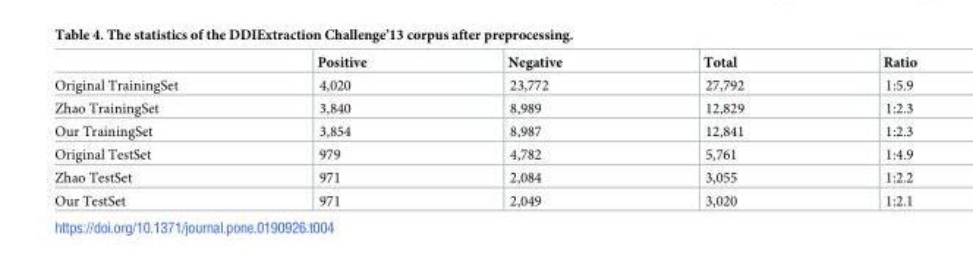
<table><thead><tr><td></td><td>Positive</td><td>Negative</td><td>Total</td><td>Ratio</td></tr></thead><tbody><tr><td>Original TrainingSet</td><td>4,020</td><td>23,772</td><td>27,792</td><td>1:5.9</td></tr><tr><td>Zhao TrainingSet</td><td>3,840</td><td>8,989</td><td>12,829</td><td>1:2.3</td></tr><tr><td>Our TrainingSet</td><td>3,854</td><td>8,987</td><td>12,841</td><td>1:2.3</td></tr><tr><td>Original TestSet</td><td>979</td><td>4,782</td><td>5,761</td><td>1:4.9</td></tr><tr><td>Zhao TestSet</td><td>971</td><td>2,084</td><td>3,055</td><td>1:2.2</td></tr><tr><td>Our TestSet</td><td>971</td><td>2,049</td><td>3,020</td><td>1:2.1</td></tr></tbody></table>